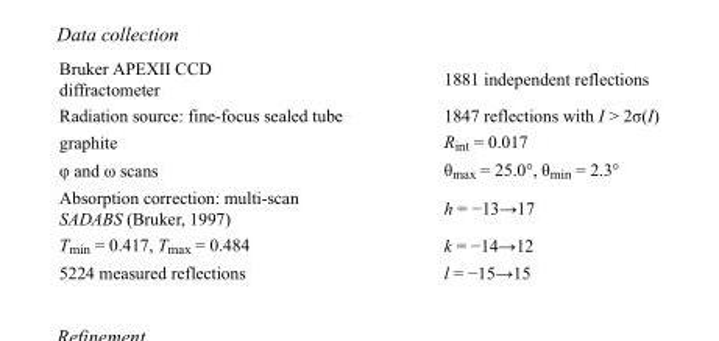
<table><tbody><tr><td>Bruker APEXII CCD diffractometer</td><td>1881 independent reflections</td></tr><tr><td>Radiation source: fine-focus sealed tube</td><td>1847 reflections with I &gt; 2σ(I)</td></tr><tr><td>graphite</td><td>R<sub>int</sub> = 0.017</td></tr><tr><td>φ and ω scans</td><td>θ<sub>max</sub> = 25.0°, θ<sub>min</sub> = 2.3°</td></tr><tr><td>Absorption correction: multi-scan SADABS (Bruker, 1997)</td><td>h = −13→17</td></tr><tr><td>T<sub>min</sub> = 0.417, T<sub>max</sub> = 0.484</td><td>k = −14→12</td></tr><tr><td>5224 measured reflections</td><td>l = −15→15</td></tr></tbody></table>